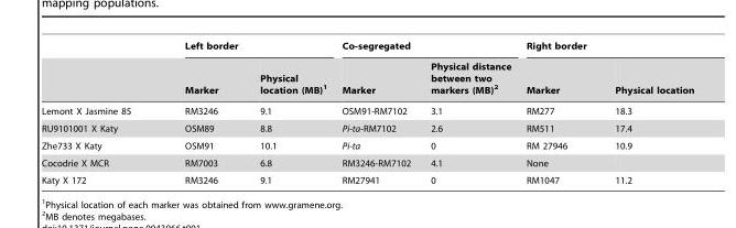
<table><thead><tr><td rowspan="2"></td><td colspan="2">Left border</td><td colspan="2">Co-segregated</td><td colspan="2">Right border</td></tr><tr><td>Marker</td><td>Physical location (MB)<sup>1</sup></td><td>Marker</td><td>Physical distance between two markers (MB)<sup>2</sup></td><td>Marker</td><td>Physical location</td></tr></thead><tbody><tr><td>Lemont X Jasmine 85</td><td>RM3246</td><td>9.1</td><td>OSM91-RM7102</td><td>3.1</td><td>RM277</td><td>18.3</td></tr><tr><td>RU9101001 X Katy</td><td>OSM89</td><td>8.8</td><td>Pi-ta-RM7102</td><td>2.6</td><td>RM511</td><td>17.4</td></tr><tr><td>Zhe733 X Katy</td><td>OSM91</td><td>10.1</td><td>Pi-ta</td><td>0</td><td>RM 27946</td><td>10.9</td></tr><tr><td>Cocodrie X MCR</td><td>RM7003</td><td>6.8</td><td>RM3246-RM7102</td><td>4.1</td><td>None</td><td></td></tr><tr><td>Katy X 172</td><td>RM3246</td><td>9.1</td><td>RM27941</td><td>0</td><td>RM1047</td><td>11.2</td></tr></tbody></table>